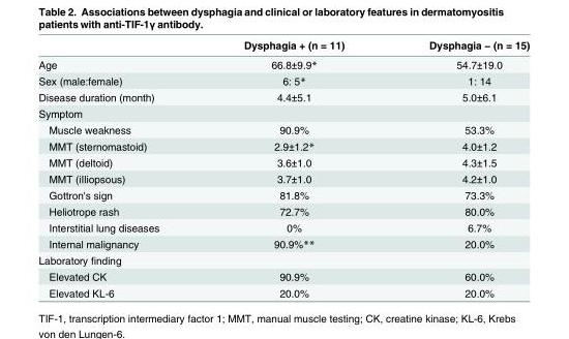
<table><thead><tr><td></td><td>Dysphagia + (n = 11)</td><td>Dysphagia − (n = 15)</td></tr></thead><tbody><tr><td>Age</td><td>66.8±9.9*</td><td>54.7±19.0</td></tr><tr><td>Sex (male:female)</td><td>6: 5*</td><td>1: 14</td></tr><tr><td>Disease duration (month)</td><td>4.4±5.1</td><td>5.0±6.1</td></tr><tr><td colspan="3">Symptom</td></tr><tr><td>Muscle weakness</td><td>90.9%</td><td>53.3%</td></tr><tr><td>MMT (sternomastoid)</td><td>2.9±1.2*</td><td>4.0±1.2</td></tr><tr><td>MMT (deltoid)</td><td>3.6±1.0</td><td>4.3±1.5</td></tr><tr><td>MMT (iIliopsous)</td><td>3.7±1.0</td><td>4.2±1.0</td></tr><tr><td>Gottron&#x27;s sign</td><td>81.8%</td><td>73.3%</td></tr><tr><td>Heliotrope rash</td><td>72.7%</td><td>80.0%</td></tr><tr><td>Interstitial lung diseases</td><td>0%</td><td>6.7%</td></tr><tr><td>Internal malignancy</td><td>90.9%**</td><td>20.0%</td></tr><tr><td colspan="3">Laboratory finding</td></tr><tr><td>Elevated CK</td><td>90.9%</td><td>60.0%</td></tr><tr><td>Elevated KL-6</td><td>20.0%</td><td>20.0%</td></tr></tbody></table>